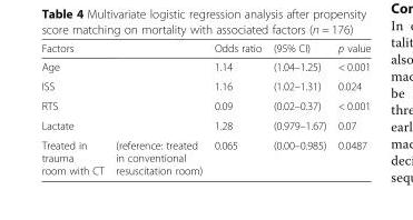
<table><thead><tr><td>Factors</td><td></td><td>Odds ratio</td><td>(95% CI)</td><td>p value</td></tr></thead><tbody><tr><td>Age</td><td></td><td>1.14</td><td>(1.04–1.25)</td><td>&lt; 0.001</td></tr><tr><td>ISS</td><td></td><td>1.16</td><td>(1.02–1.31)</td><td>0.024</td></tr><tr><td>RTS</td><td></td><td>0.09</td><td>(0.02–0.37)</td><td>&lt; 0.001</td></tr><tr><td>Lactate</td><td></td><td>1.28</td><td>(0.979–1.67)</td><td>0.07</td></tr><tr><td>Treated in trauma room with CT</td><td>(reference: treated in conventional resuscitation room)</td><td>0.065</td><td>(0.00–0.985)</td><td>0.0487</td></tr></tbody></table>